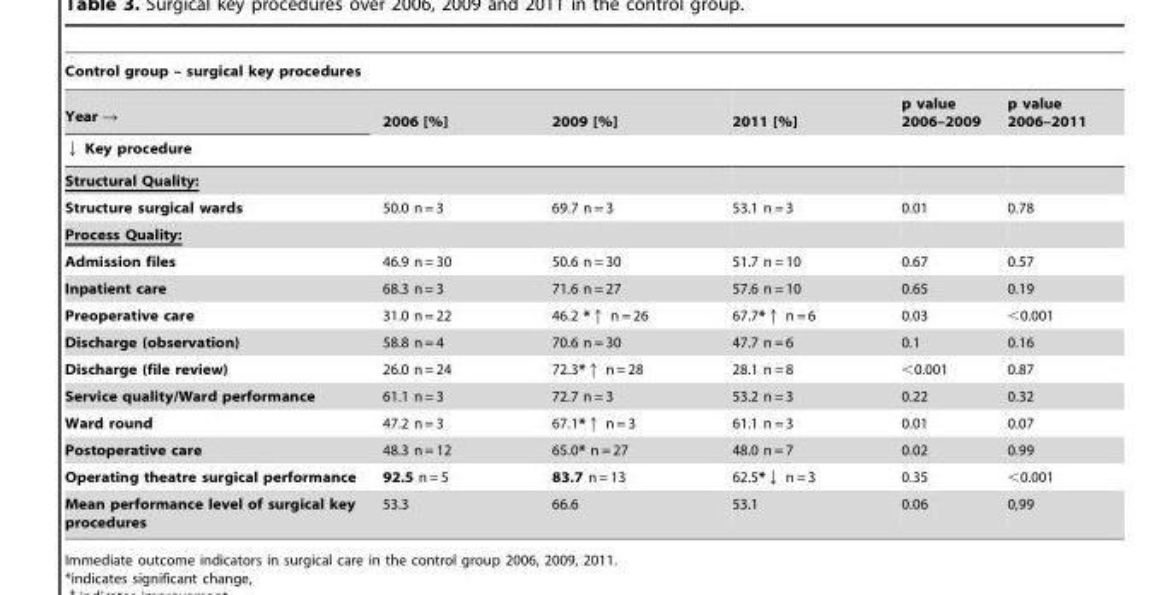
<table><thead><tr><td colspan="6">Control group – surgical key procedures</td></tr><tr><td rowspan="2">Year → ↓ Key procedure</td><td rowspan="2">2006 [%]</td><td rowspan="2">2009 [%]</td><td rowspan="2">2011 [%]</td><td rowspan="2">p value 2006–2009</td><td rowspan="2">p value 2006–2011</td></tr><tr></tr></thead><tbody><tr><td colspan="6">Structural Quality:</td></tr><tr><td>Structure surgical wards</td><td>50.0 n = 3</td><td>69.7 n = 3</td><td>53.1 n = 3</td><td>0.01</td><td>0.78</td></tr><tr><td colspan="6">Process Quality:</td></tr><tr><td>Admission files</td><td>46.9 n = 30</td><td>50.6 n = 30</td><td>51.7 n = 10</td><td>0.67</td><td>0.57</td></tr><tr><td>Inpatient care</td><td>68.3 n = 3</td><td>71.6 n = 27</td><td>57.6 n = 10</td><td>0.65</td><td>0.19</td></tr><tr><td>Preoperative care</td><td>31.0 n = 22</td><td>46.2 *↑ n = 26</td><td>67.7*↑ n = 6</td><td>0.03</td><td>&lt;0.001</td></tr><tr><td>Discharge (observation)</td><td>58.8 n = 4</td><td>70.6 n = 30</td><td>47.7 n = 6</td><td>0.1</td><td>0.16</td></tr><tr><td>Discharge (file review)</td><td>26.0 n = 24</td><td>72.3*↑ n = 28</td><td>28.1 n = 8</td><td>&lt;0.001</td><td>0.87</td></tr><tr><td>Service quality/Ward performance</td><td>61.1 n = 3</td><td>72.7 n = 3</td><td>53.2 n = 3</td><td>0.22</td><td>0.32</td></tr><tr><td>Ward round</td><td>47.2 n = 3</td><td>67.1*↑ n = 3</td><td>61.1 n = 3</td><td>0.01</td><td>0.07</td></tr><tr><td>Postoperative care</td><td>48.3 n = 12</td><td>65.0* n = 27</td><td>48.0 n = 7</td><td>0.02</td><td>0.99</td></tr><tr><td>Operating theatre surgical performance</td><td>92.5 n = 5</td><td>83.7 n = 13</td><td>62.5*↓ n = 3</td><td>0.35</td><td>&lt;0.001</td></tr><tr><td>Mean performance level of surgical key procedures</td><td>53.3</td><td>66.6</td><td>53.1</td><td>0.06</td><td>0,99</td></tr></tbody></table>